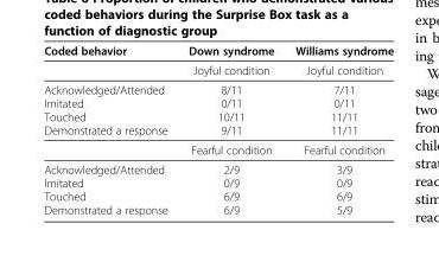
<table><thead><tr><td>Coded behavior</td><td>Down syndrome</td><td>Williams syndrome</td></tr></thead><tbody><tr><td></td><td>Joyful condition</td><td>Joyful condition</td></tr><tr><td>Acknowledged/Attended</td><td>8/11</td><td>7/11</td></tr><tr><td>Imitated</td><td>0/11</td><td>0/11</td></tr><tr><td>Touched</td><td>10/11</td><td>11/11</td></tr><tr><td rowspan="2">Demonstrated a response</td><td>9/11</td><td>11/11</td></tr><tr><td>Fearful condition</td><td>Fearful condition</td></tr><tr><td>Acknowledged/Attended</td><td>2/9</td><td>3/9</td></tr><tr><td>Imitated</td><td>0/9</td><td>0/9</td></tr><tr><td>Touched</td><td>6/9</td><td>6/9</td></tr><tr><td>Demonstrated a response</td><td>6/9</td><td>5/9</td></tr></tbody></table>